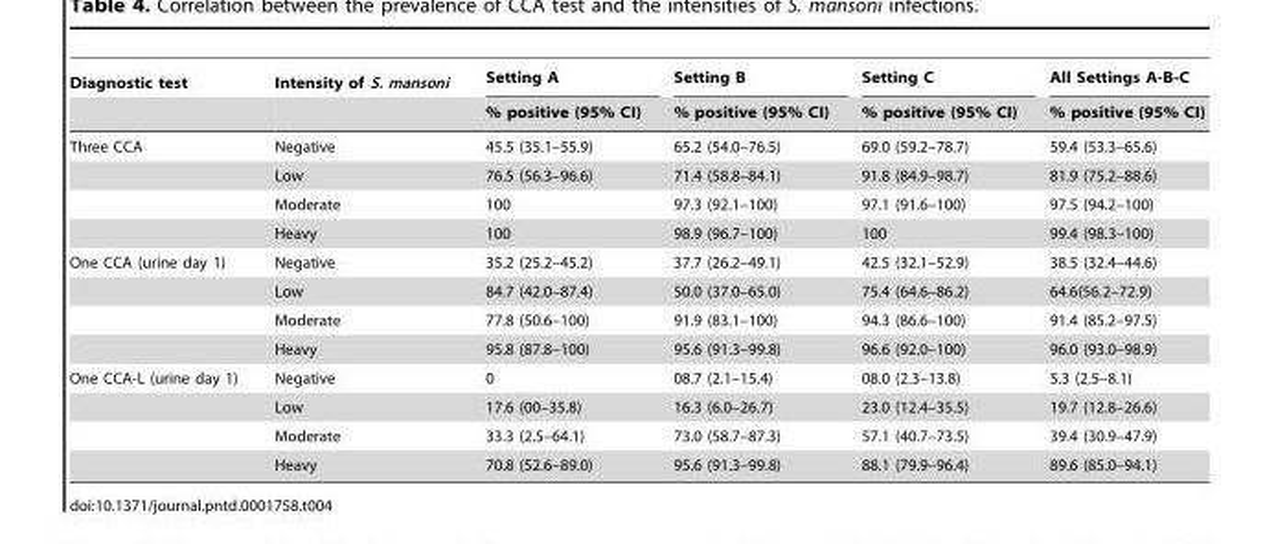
<table><thead><tr><td rowspan="2">Diagnostic test</td><td rowspan="2">Intensity of S. mansoni</td><td rowspan="2">Setting A % positive (95% CI)</td><td rowspan="2">Setting B % positive (95% CI)</td><td rowspan="2">Setting C % positive (95% CI)</td><td rowspan="2">All Settings A-B-C % positive (95% CI)</td></tr><tr></tr></thead><tbody><tr><td rowspan="4">Three CCA</td><td>Negative</td><td>45.5 (35.1–55.9)</td><td>65.2 (54.0–76.5)</td><td>69.0 (59.2–78.7)</td><td>59.4 (53.3–65.6)</td></tr><tr><td>Low</td><td>76.5 (56.3–96.6)</td><td>71.4 (58.8–84.1)</td><td>91.8 (84.9–98.7)</td><td>81.9 (75.2–88.6)</td></tr><tr><td>Moderate</td><td>100</td><td>97.3 (92.1–100)</td><td>97.1 (91.6–100)</td><td>97.5 (94.2–100)</td></tr><tr><td>Heavy</td><td>100</td><td>98.9 (96.7–100)</td><td>100</td><td>99.4 (98.3–100)</td></tr><tr><td rowspan="4">One CCA (urine day 1)</td><td>Negative</td><td>35.2 (25.2–45.2)</td><td>37.7 (26.2–49.1)</td><td>42.5 (32.1–52.9)</td><td>38.5 (32.4–44.6)</td></tr><tr><td>Low</td><td>84.7 (42.0–87.4)</td><td>50.0 (37.0–65.0)</td><td>75.4 (64.6–86.2)</td><td>64.6(56.2–72.9)</td></tr><tr><td>Moderate</td><td>77.8 (50.6–100)</td><td>91.9 (83.1–100)</td><td>94.3 (86.6–100)</td><td>91.4 (85.2–97.5)</td></tr><tr><td>Heavy</td><td>95.8 (87.8–100)</td><td>95.6 (91.3–99.8)</td><td>96.6 (92.0–100)</td><td>96.0 (93.0–98.9)</td></tr><tr><td rowspan="4">One CCA-L (urine day 1)</td><td>Negative</td><td>0</td><td>08.7 (2.1–15.4)</td><td>08.0 (2.3–13.8)</td><td>5.3 (2.5–8.1)</td></tr><tr><td>Low</td><td>17.6 (00–35.8)</td><td>16.3 (6.0–26.7)</td><td>23.0 (12.4–35.5)</td><td>19.7 (12.8–26.6)</td></tr><tr><td>Moderate</td><td>33.3 (2.5–64.1)</td><td>73.0 (58.7–87.3)</td><td>57.1 (40.7–73.5)</td><td>39.4 (30.9–47.9)</td></tr><tr><td>Heavy</td><td>70.8 (52.6–89.0)</td><td>95.6 (91.3–99.8)</td><td>88.1 (79.9–96.4)</td><td>89.6 (85.0–94.1)</td></tr></tbody></table>